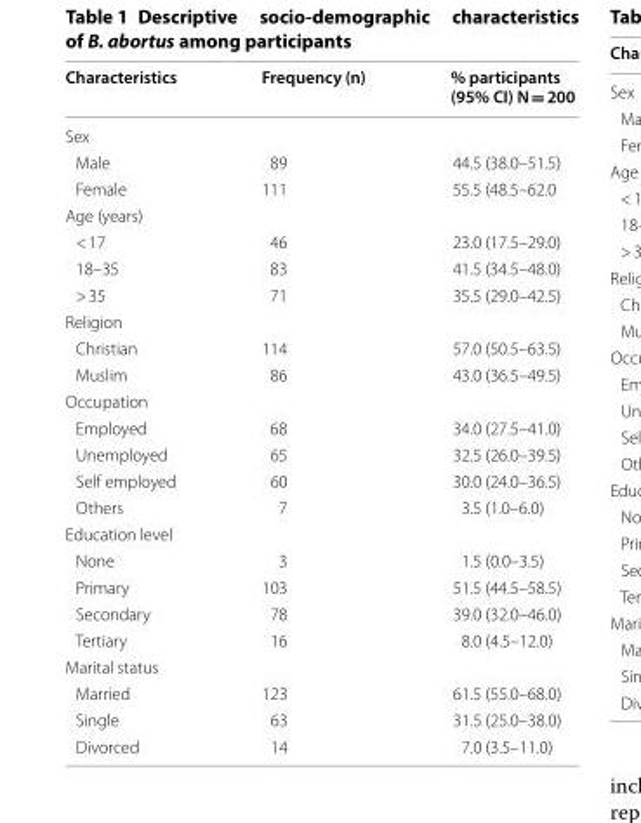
<table><thead><tr><td>Characteristics</td><td>Frequency (n)</td><td>% participants (95% CI) N = 200</td></tr></thead><tbody><tr><td colspan="3">Sex</td></tr><tr><td>Male</td><td>89</td><td>44.5 (38.0–51.5)</td></tr><tr><td>Female</td><td>111</td><td>55.5 (48.5–62.0</td></tr><tr><td colspan="3">Age (years)</td></tr><tr><td>&lt; 17</td><td>46</td><td>23.0 (17.5–29.0)</td></tr><tr><td>18–35</td><td>83</td><td>41.5 (34.5–48.0)</td></tr><tr><td>&gt; 35</td><td>71</td><td>35.5 (29.0–42.5)</td></tr><tr><td colspan="3">Religion</td></tr><tr><td>Christian</td><td>114</td><td>57.0 (50.5–63.5)</td></tr><tr><td>Muslim</td><td>86</td><td>43.0 (36.5–49.5)</td></tr><tr><td colspan="3">Occupation</td></tr><tr><td>Employed</td><td>68</td><td>34.0 (27.5–41.0)</td></tr><tr><td>Unemployed</td><td>65</td><td>32.5 (26.0–39.5)</td></tr><tr><td>Self employed</td><td>60</td><td>30.0 (24.0–36.5)</td></tr><tr><td>Others</td><td>7</td><td>3.5 (1.0–6.0)</td></tr><tr><td colspan="3">Education level</td></tr><tr><td>None</td><td>3</td><td>1.5 (0.0–3.5)</td></tr><tr><td>Primary</td><td>103</td><td>51.5 (44.5–58.5)</td></tr><tr><td>Secondary</td><td>78</td><td>39.0 (32.0–46.0)</td></tr><tr><td>Tertiary</td><td>16</td><td>8.0 (4.5–12.0)</td></tr><tr><td colspan="3">Marital status</td></tr><tr><td>Married</td><td>123</td><td>61.5 (55.0–68.0)</td></tr><tr><td>Single</td><td>63</td><td>31.5 (25.0–38.0)</td></tr><tr><td>Divorced</td><td>14</td><td>7.0 (3.5–11.0)</td></tr></tbody></table>